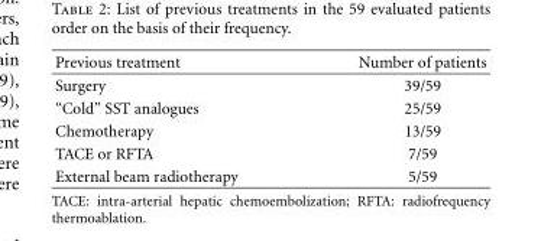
<table><thead><tr><td>Previous treatment</td><td>Number of patients</td></tr></thead><tbody><tr><td>Surgery</td><td>39/59</td></tr><tr><td>“Cold” SST analogues</td><td>25/59</td></tr><tr><td>Chemotherapy</td><td>13/59</td></tr><tr><td>TACE or RFTA</td><td>7/59</td></tr><tr><td>External beam radiotherapy</td><td>5/59</td></tr></tbody></table>